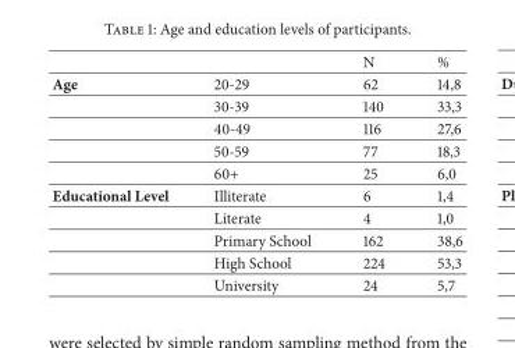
<table><thead><tr><td></td><td></td><td>N</td><td>%</td></tr></thead><tbody><tr><td rowspan="5">Age</td><td>20-29</td><td>62</td><td>14,8</td></tr><tr><td>30-39</td><td>140</td><td>33,3</td></tr><tr><td>40-49</td><td>116</td><td>27,6</td></tr><tr><td>50-59</td><td>77</td><td>18,3</td></tr><tr><td>60+</td><td>25</td><td>6,0</td></tr><tr><td rowspan="5">Educational Level</td><td>Illiterate</td><td>6</td><td>1,4</td></tr><tr><td>Literate</td><td>4</td><td>1,0</td></tr><tr><td>Primary School</td><td>162</td><td>38,6</td></tr><tr><td>High School</td><td>224</td><td>53,3</td></tr><tr><td>University</td><td>24</td><td>5,7</td></tr></tbody></table>